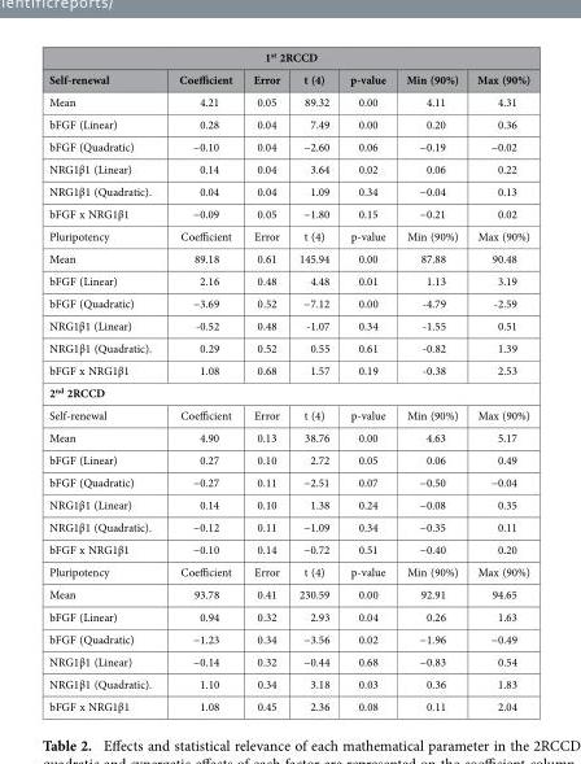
<table><thead><tr><td colspan="7">1<sup>st</sup> 2RCCD</td></tr><tr><td>Self-renewal</td><td>Coefficient</td><td>Error</td><td>t (4)</td><td>p-value</td><td>Min (90%)</td><td>Max (90%)</td></tr></thead><tbody><tr><td>Mean</td><td>4.21</td><td>0.05</td><td>89.32</td><td>0.00</td><td>4.11</td><td>4.31</td></tr><tr><td>bFGF (Linear)</td><td>0.28</td><td>0.04</td><td>7.49</td><td>0.00</td><td>0.20</td><td>0.36</td></tr><tr><td>bFGF (Quadratic)</td><td>−0.10</td><td>0.04</td><td>−2.60</td><td>0.06</td><td>−0.19</td><td>−0.02</td></tr><tr><td>NRG1β1 (Linear)</td><td>0.14</td><td>0.04</td><td>3.64</td><td>0.02</td><td>0.06</td><td>0.22</td></tr><tr><td>NRG1β1 (Quadratic).</td><td>0.04</td><td>0.04</td><td>1.09</td><td>0.34</td><td>−0.04</td><td>0.13</td></tr><tr><td>bFGF x NRG1β1</td><td>−0.09</td><td>0.05</td><td>−1.80</td><td>0.15</td><td>−0.21</td><td>0.02</td></tr><tr><td>Pluripotency</td><td>Coefficient</td><td>Error</td><td>t (4)</td><td>p-value</td><td>Min (90%)</td><td>Max (90%)</td></tr><tr><td>Mean</td><td>89.18</td><td>0.61</td><td>145.94</td><td>0.00</td><td>87.88</td><td>90.48</td></tr><tr><td>bFGF (Linear)</td><td>2.16</td><td>0.48</td><td>4.48</td><td>0.01</td><td>1.13</td><td>3.19</td></tr><tr><td>bFGF (Quadratic)</td><td>−3.69</td><td>0.52</td><td>−7.12</td><td>0.00</td><td>-4.79</td><td>-2.59</td></tr><tr><td>NRG1β1 (Linear)</td><td>-0.52</td><td>0.48</td><td>-1.07</td><td>0.34</td><td>-1.55</td><td>0.51</td></tr><tr><td>NRG1β1 (Quadratic).</td><td>0.29</td><td>0.52</td><td>0.55</td><td>0.61</td><td>-0.82</td><td>1.39</td></tr><tr><td>bFGF x NRG1β1</td><td>1.08</td><td>0.68</td><td>1.57</td><td>0.19</td><td>-0.38</td><td>2.53</td></tr><tr><td colspan="7">2<sup>nd</sup> 2RCCD</td></tr><tr><td>Self-renewal</td><td>Coefficient</td><td>Error</td><td>t (4)</td><td>p-value</td><td>Min (90%)</td><td>Max (90%)</td></tr><tr><td>Mean</td><td>4.90</td><td>0.13</td><td>38.76</td><td>0.00</td><td>4.63</td><td>5.17</td></tr><tr><td>bFGF (Linear)</td><td>0.27</td><td>0.10</td><td>2.72</td><td>0.05</td><td>0.06</td><td>0.49</td></tr><tr><td>bFGF (Quadratic)</td><td>−0.27</td><td>0.11</td><td>−2.51</td><td>0.07</td><td>−0.50</td><td>−0.04</td></tr><tr><td>NRG1β1 (Linear)</td><td>0.14</td><td>0.10</td><td>1.38</td><td>0.24</td><td>−0.08</td><td>0.35</td></tr><tr><td>NRG1β1 (Quadratic).</td><td>−0.12</td><td>0.11</td><td>−1.09</td><td>0.34</td><td>−0.35</td><td>0.11</td></tr><tr><td>bFGF x NRG1β1</td><td>−0.10</td><td>0.14</td><td>−0.72</td><td>0.51</td><td>−0.40</td><td>0.20</td></tr><tr><td>Pluripotency</td><td>Coefficient</td><td>Error</td><td>t (4)</td><td>p-value</td><td>Min (90%)</td><td>Max (90%)</td></tr><tr><td>Mean</td><td>93.78</td><td>0.41</td><td>230.59</td><td>0.00</td><td>92.91</td><td>94.65</td></tr><tr><td>bFGF (Linear)</td><td>0.94</td><td>0.32</td><td>2.93</td><td>0.04</td><td>0.26</td><td>1.63</td></tr><tr><td>bFGF (Quadratic)</td><td>−1.23</td><td>0.34</td><td>−3.56</td><td>0.02</td><td>−1.96</td><td>−0.49</td></tr><tr><td>NRG1β1 (Linear)</td><td>−0.14</td><td>0.32</td><td>−0.44</td><td>0.68</td><td>−0.83</td><td>0.54</td></tr><tr><td>NRG1β1 (Quadratic).</td><td>1.10</td><td>0.34</td><td>3.18</td><td>0.03</td><td>0.36</td><td>1.83</td></tr><tr><td>bFGF x NRG1β1</td><td>1.08</td><td>0.45</td><td>2.36</td><td>0.08</td><td>0.11</td><td>2.04</td></tr></tbody></table>